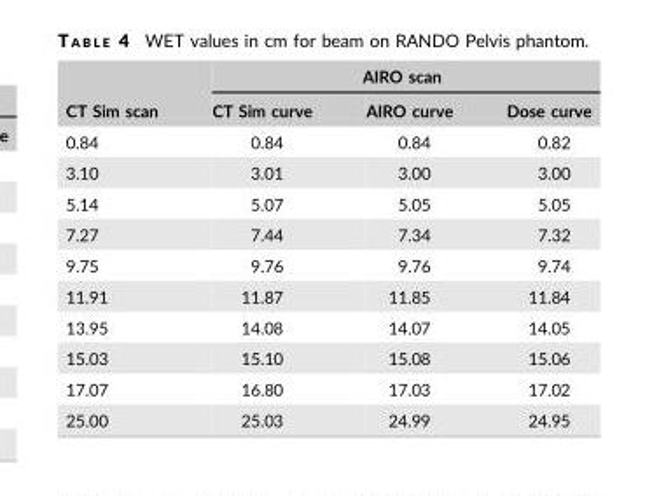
<table><thead><tr><td rowspan="2">CT Sim scan</td><td colspan="3">AIRO scan</td></tr><tr><td>CT Sim curve</td><td>AIRO curve</td><td>Dose curve</td></tr></thead><tbody><tr><td>0.84</td><td>0.84</td><td>0.84</td><td>0.82</td></tr><tr><td>3.10</td><td>3.01</td><td>3.00</td><td>3.00</td></tr><tr><td>5.14</td><td>5.07</td><td>5.05</td><td>5.05</td></tr><tr><td>7.27</td><td>7.44</td><td>7.34</td><td>7.32</td></tr><tr><td>9.75</td><td>9.76</td><td>9.76</td><td>9.74</td></tr><tr><td>11.91</td><td>11.87</td><td>11.85</td><td>11.84</td></tr><tr><td>13.95</td><td>14.08</td><td>14.07</td><td>14.05</td></tr><tr><td>15.03</td><td>15.10</td><td>15.08</td><td>15.06</td></tr><tr><td>17.07</td><td>16.80</td><td>17.03</td><td>17.02</td></tr><tr><td>25.00</td><td>25.03</td><td>24.99</td><td>24.95</td></tr></tbody></table>